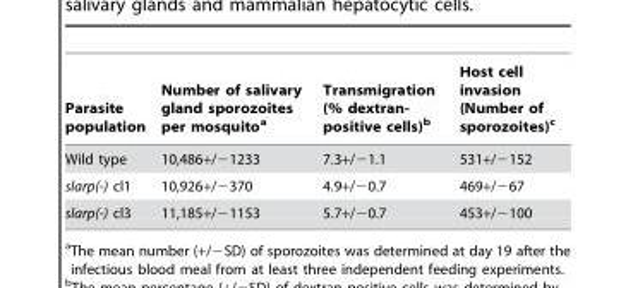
<table><thead><tr><td>Parasite population</td><td>Number of salivary gland sporozoites per mosquito<sup>a</sup></td><td>Transmigration (% dextran- positive cells)<sup>b</sup></td><td>Host cell invasion (Number of sporozoites)<sup>c</sup></td></tr></thead><tbody><tr><td>Wild type</td><td>10,486+/−1233</td><td>7.3+/−1.1</td><td>531+/−152</td></tr><tr><td>slarp(-) cl1</td><td>10,926+/−370</td><td>4.9+/−0.7</td><td>469+/−67</td></tr><tr><td>slarp(-) cl3</td><td>11,185+/−1153</td><td>5.7+/−0.7</td><td>453+/−100</td></tr></tbody></table>